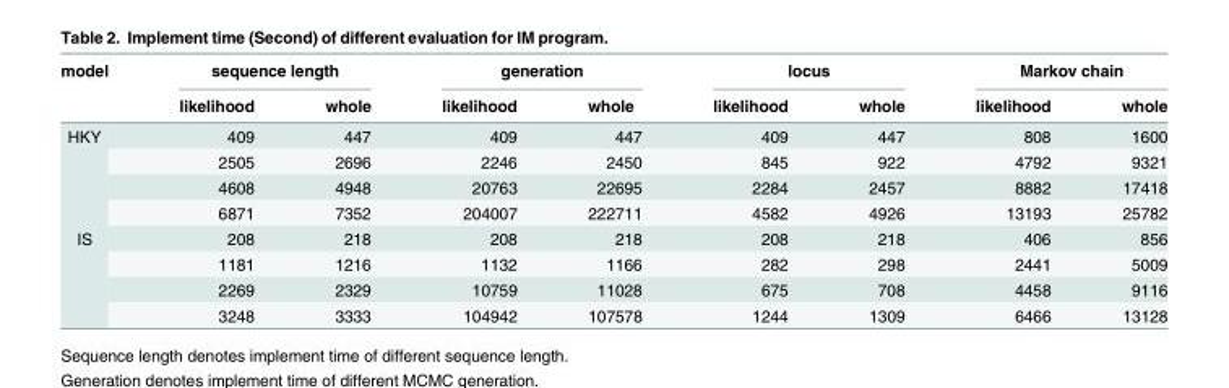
<table><thead><tr><td rowspan="2">model</td><td colspan="2">sequence length</td><td colspan="2">generation</td><td colspan="2">locus</td><td colspan="2">Markov chain</td></tr><tr><td>likelihood</td><td>whole</td><td>likelihood</td><td>whole</td><td>likelihood</td><td>whole</td><td>likelihood</td><td>whole</td></tr></thead><tbody><tr><td rowspan="4">HKY</td><td>409</td><td>447</td><td>409</td><td>447</td><td>409</td><td>447</td><td>808</td><td>1600</td></tr><tr><td>2505</td><td>2696</td><td>2246</td><td>2450</td><td>845</td><td>922</td><td>4792</td><td>9321</td></tr><tr><td>4608</td><td>4948</td><td>20763</td><td>22695</td><td>2284</td><td>2457</td><td>8882</td><td>17418</td></tr><tr><td>6871</td><td>7352</td><td>204007</td><td>222711</td><td>4582</td><td>4926</td><td>13193</td><td>25782</td></tr><tr><td rowspan="4">IS</td><td>208</td><td>218</td><td>208</td><td>218</td><td>208</td><td>218</td><td>406</td><td>856</td></tr><tr><td>1181</td><td>1216</td><td>1132</td><td>1166</td><td>282</td><td>298</td><td>2441</td><td>5009</td></tr><tr><td>2269</td><td>2329</td><td>10759</td><td>11028</td><td>675</td><td>708</td><td>4458</td><td>9116</td></tr><tr><td>3248</td><td>3333</td><td>104942</td><td>107578</td><td>1244</td><td>1309</td><td>6466</td><td>13128</td></tr></tbody></table>